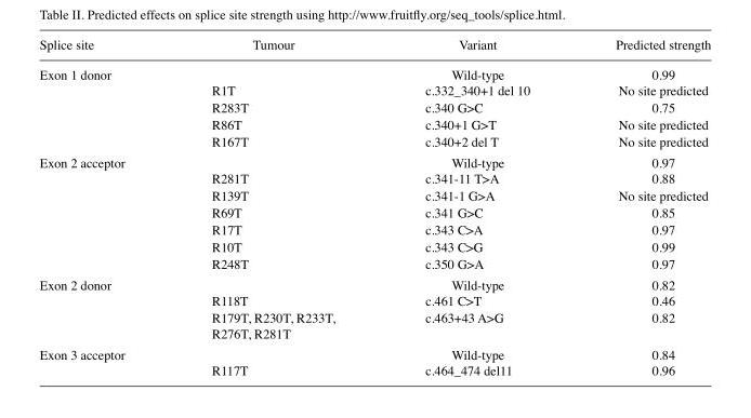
<table><thead><tr><td>Splice site</td><td>Tumour</td><td>Variant</td><td>Predicted strength</td></tr></thead><tbody><tr><td rowspan="5">Exon 1 donor</td><td></td><td>Wild-type</td><td>0.99</td></tr><tr><td>R1T</td><td>c.332_340+1 del 10</td><td>No site predicted</td></tr><tr><td>R283T</td><td>c.340 G&gt;C</td><td>0.75</td></tr><tr><td>R86T</td><td>c.340+1 G&gt;T</td><td>No site predicted</td></tr><tr><td>R167T</td><td>c.340+2 del T</td><td>No site predicted</td></tr><tr><td rowspan="7">Exon 2 acceptor</td><td></td><td>Wild-type</td><td>0.97</td></tr><tr><td>R281T</td><td>c.341-11 T&gt;A</td><td>0.88</td></tr><tr><td>R139T</td><td>c.341-1 G&gt;A</td><td>No site predicted</td></tr><tr><td>R69T</td><td>c.341 G&gt;C</td><td>0.85</td></tr><tr><td>R17T</td><td>c.343 C&gt;A</td><td>0.97</td></tr><tr><td>R10T</td><td>c.343 C&gt;G</td><td>0.99</td></tr><tr><td>R248T</td><td>c.350 G&gt;A</td><td>0.97</td></tr><tr><td rowspan="4">Exon 2 donor</td><td></td><td>Wild-type</td><td>0.82</td></tr><tr><td>R118T</td><td>c.461 C&gt;T</td><td>0.46</td></tr><tr><td>R179T, R230T, R233T,</td><td>c.463+43 A&gt;G</td><td>0.82</td></tr><tr><td>R276T, R281T</td><td></td><td></td></tr><tr><td rowspan="2">Exon 3 acceptor</td><td></td><td>Wild-type</td><td>0.84</td></tr><tr><td>R117T</td><td>c.464_474 del11</td><td>0.96</td></tr></tbody></table>